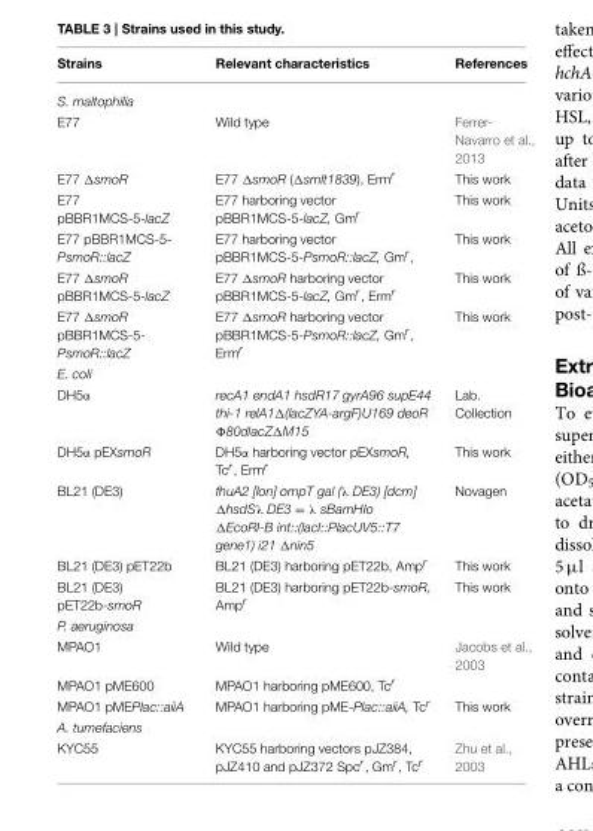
<table><thead><tr><td>Strains</td><td>Relevant characteristics</td><td>References</td></tr></thead><tbody><tr><td colspan="3">S. maltophilia</td></tr><tr><td>E77</td><td>Wild type</td><td>Ferrer- Navarro et al., 2013</td></tr><tr><td>E77 ΔsmoR</td><td>E77 ΔsmoR (Δsmlt1839), Erm<sup>r</sup></td><td>This work</td></tr><tr><td>E77 pBBR1MCS-5-lacZ</td><td>E77 harboring vector pBBR1MCS-5-lacZ, Gm<sup>r</sup></td><td>This work</td></tr><tr><td>E77 pBBR1MCS-5- PsmoR::lacZ</td><td>E77 harboring vector pBBR1MCS-5-PsmoR::lacZ, Gm<sup>r</sup>,</td><td>This work</td></tr><tr><td>E77 ΔsmoR pBBR1MCS-5-lacZ</td><td>E77 ΔsmoR harboring vector pBBR1MCS-5-lacZ, Gm<sup>r</sup>, Erm<sup>r</sup></td><td>This work</td></tr><tr><td>E77 ΔsmoR pBBR1MCS-5- PsmoR::lacZ</td><td>E77 ΔsmoR harboring vector pBBR1MCS-5-PsmoR::lacZ, Gm<sup>r</sup>, Erm<sup>r</sup></td><td>This work</td></tr><tr><td colspan="3">E. coli</td></tr><tr><td>DH5α</td><td>recA1 endA1 hsdR17 gyrA96 supE44 thi-1 relA1Δ(lacZYA-argF)U169 deoR Φ80dlacZΔM15</td><td>Lab. Collection</td></tr><tr><td>DH5α pEXsmoR</td><td>DH5α harboring vector pEXsmoR, Tc<sup>r</sup>, Erm<sup>r</sup></td><td>This work</td></tr><tr><td>BL21 (DE3)</td><td>fhuA2 [lon] ompT gal (λ DE3) [dcm] ΔhsdSλ DE3 = λ sBamHIo ΔEcoRI-B int::(lacI::PlacUV5::T7 gene1) i21 Δnin5</td><td>Novagen</td></tr><tr><td>BL21 (DE3) pET22b</td><td>BL21 (DE3) harboring pET22b, Amp<sup>r</sup></td><td>This work</td></tr><tr><td>BL21 (DE3) pET22b-smoR</td><td>BL21 (DE3) harboring pET22b-smoR, Amp<sup>r</sup></td><td>This work</td></tr><tr><td colspan="3">P. aeruginosa</td></tr><tr><td>MPAO1</td><td>Wild type</td><td>Jacobs et al., 2003</td></tr><tr><td>MPAO1 pME600</td><td>MPAO1 harboring pME600, Tc<sup>r</sup></td><td></td></tr><tr><td>MPAO1 pMEPlac::aiiA</td><td>MPAO1 harboring pME-Plac::aiiA, Tc<sup>r</sup></td><td>This work</td></tr><tr><td colspan="3">A. tumefaciens</td></tr><tr><td>KYC55</td><td>KYC55 harboring vectors pJZ384, pJZ410 and pJZ372 Spc<sup>r</sup>, Gm<sup>r</sup>, Tc<sup>r</sup></td><td>Zhu et al., 2003</td></tr></tbody></table>